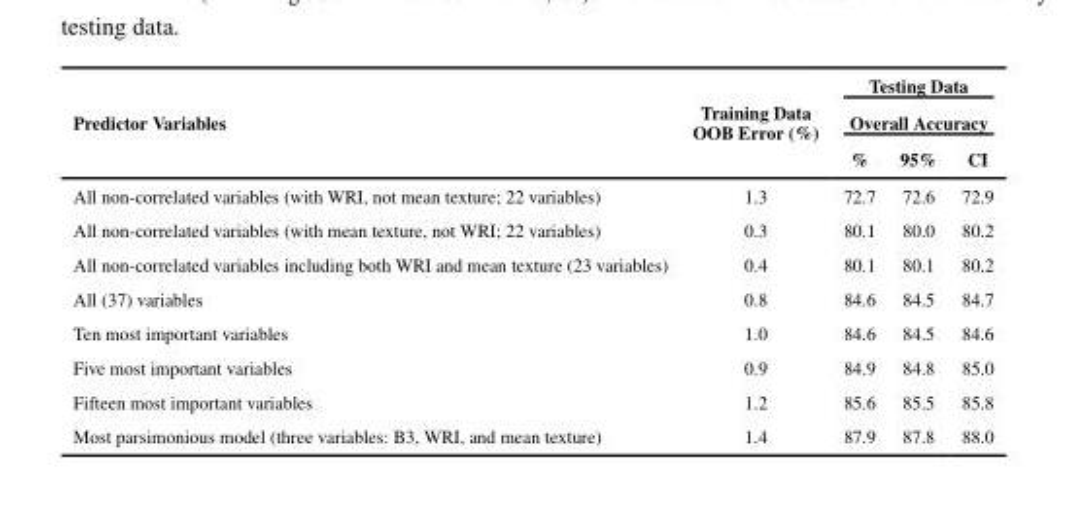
<table><thead><tr><td rowspan="3">Predictor Variables</td><td rowspan="3">Training Data OOB Error (%)</td><td rowspan="2" colspan="3">Testing Data Overall Accuracy</td></tr><tr></tr><tr><td>%</td><td>95%</td><td>CI</td></tr></thead><tbody><tr><td>All non-correlated variables (with WRI, not mean texture; 22 variables)</td><td>1.3</td><td>72.7</td><td>72.6</td><td>72.9</td></tr><tr><td>All non-correlated variables (with mean texture, not WRI; 22 variables)</td><td>0.3</td><td>80.1</td><td>80.0</td><td>80.2</td></tr><tr><td>All non-correlated variables including both WRI and mean texture (23 variables)</td><td>0.4</td><td>80.1</td><td>80.1</td><td>80.2</td></tr><tr><td>All (37) variables</td><td>0.8</td><td>84.6</td><td>84.5</td><td>84.7</td></tr><tr><td>Ten most important variables</td><td>1.0</td><td>84.6</td><td>84.5</td><td>84.6</td></tr><tr><td>Five most important variables</td><td>0.9</td><td>84.9</td><td>84.8</td><td>85.0</td></tr><tr><td>Fifteen most important variables</td><td>1.2</td><td>85.6</td><td>85.5</td><td>85.8</td></tr><tr><td>Most parsimonious model (three variables: B3, WRI, and mean texture)</td><td>1.4</td><td>87.9</td><td>87.8</td><td>88.0</td></tr></tbody></table>